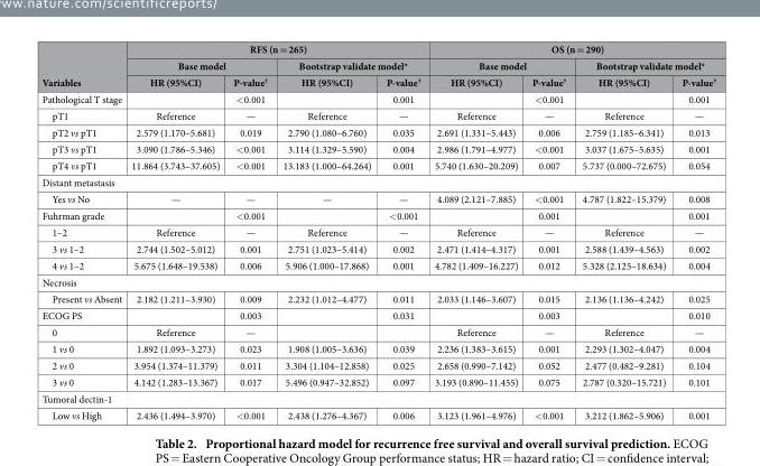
<table><thead><tr><td rowspan="3">Variables</td><td colspan="4">RFS (n = 265)</td><td colspan="4">OS (n = 290)</td></tr><tr><td colspan="2">Base model</td><td colspan="2">Bootstrap validate model*</td><td colspan="2">Base model</td><td colspan="2">Bootstrap validate model*</td></tr><tr><td>HR (95%CI)</td><td>P-value<sup>†</sup></td><td>HR (95%CI)</td><td>P-value<sup>†</sup></td><td>HR (95%CI)</td><td>P-value<sup>†</sup></td><td>HR (95%CI)</td><td>P-value<sup>†</sup></td></tr></thead><tbody><tr><td>Pathological T stage</td><td></td><td>&lt; 0.001</td><td></td><td>0.001</td><td></td><td>&lt; 0.001</td><td></td><td>0.001</td></tr><tr><td>pT1</td><td>Reference</td><td>—</td><td>Reference</td><td>—</td><td>Reference</td><td>—</td><td>Reference</td><td>—</td></tr><tr><td>pT2 vs pT1</td><td>2.579 (1.170–5.681)</td><td>0.019</td><td>2.790 (1.080–6.760)</td><td>0.035</td><td>2.691 (1.331–5.443)</td><td>0.006</td><td>2.759 (1.185–6.341)</td><td>0.013</td></tr><tr><td>pT3 vs pT1</td><td>3.090 (1.786–5.346)</td><td>&lt; 0.001</td><td>3.114 (1.329–5.590)</td><td>0.004</td><td>2.986 (1.791–4.977)</td><td>&lt; 0.001</td><td>3.037 (1.675–5.635)</td><td>0.001</td></tr><tr><td>pT4 vs pT1</td><td>11.864 (3.743–37.605)</td><td>&lt; 0.001</td><td>13.183 (1.000–64.264)</td><td>0.001</td><td>5.740 (1.630–20.209)</td><td>0.007</td><td>5.737 (0.000–72.675)</td><td>0.054</td></tr><tr><td colspan="9">Distant metastasis</td></tr><tr><td>Yes vs No</td><td>—</td><td>—</td><td>—</td><td>—</td><td>4.089 (2.121–7.885)</td><td>&lt; 0.001</td><td>4.787 (1.822–15.379)</td><td>0.008</td></tr><tr><td>Fuhrman grade</td><td></td><td>&lt; 0.001</td><td></td><td>&lt; 0.001</td><td></td><td>0.001</td><td></td><td>0.001</td></tr><tr><td>1–2</td><td>Reference</td><td>—</td><td>Reference</td><td>—</td><td>Reference</td><td>—</td><td>Reference</td><td>—</td></tr><tr><td>3 vs 1–2</td><td>2.744 (1.502–5.012)</td><td>0.001</td><td>2.751 (1.023–5.414)</td><td>0.002</td><td>2.471 (1.414–4.317)</td><td>0.001</td><td>2.588 (1.439–4.563)</td><td>0.002</td></tr><tr><td>4 vs 1–2</td><td>5.675 (1.648–19.538)</td><td>0.006</td><td>5.906 (1.000–17.868)</td><td>0.001</td><td>4.782 (1.409–16.227)</td><td>0.012</td><td>5.328 (2.125–18.634)</td><td>0.004</td></tr><tr><td colspan="9">Necrosis</td></tr><tr><td>Present vs Absent</td><td>2.182 (1.211–3.930)</td><td>0.009</td><td>2.232 (1.012–4.477)</td><td>0.011</td><td>2.033 (1.146–3.607)</td><td>0.015</td><td>2.136 (1.136–4.242)</td><td>0.025</td></tr><tr><td>ECOG PS</td><td></td><td>0.003</td><td></td><td>0.031</td><td></td><td>0.003</td><td></td><td>0.010</td></tr><tr><td>0</td><td>Reference</td><td>—</td><td></td><td></td><td>Reference</td><td>—</td><td>Reference</td><td>—</td></tr><tr><td>1 vs 0</td><td>1.892 (1.093–3.273)</td><td>0.023</td><td>1.908 (1.005–3.636)</td><td>0.039</td><td>2.236 (1.383–3.615)</td><td>0.001</td><td>2.293 (1.302–4.047)</td><td>0.004</td></tr><tr><td>2 vs 0</td><td>3.954 (1.374–11.379)</td><td>0.011</td><td>3.304 (1.104–12.858)</td><td>0.025</td><td>2.658 (0.990–7.142)</td><td>0.052</td><td>2.477 (0.482–9.281)</td><td>0.104</td></tr><tr><td>3 vs 0</td><td>4.142 (1.283–13.367)</td><td>0.017</td><td>5.496 (0.947–32.852)</td><td>0.097</td><td>3.193 (0.890–11.455)</td><td>0.075</td><td>2.787 (0.320–15.721)</td><td>0.101</td></tr><tr><td colspan="9">Tumoral dectin-1</td></tr><tr><td>Low vs High</td><td>2.436 (1.494–3.970)</td><td>&lt; 0.001</td><td>2.438 (1.276–4.367)</td><td>0.006</td><td>3.123 (1.961–4.976)</td><td>&lt; 0.001</td><td>3.212 (1.862–5.906)</td><td>0.001</td></tr></tbody></table>